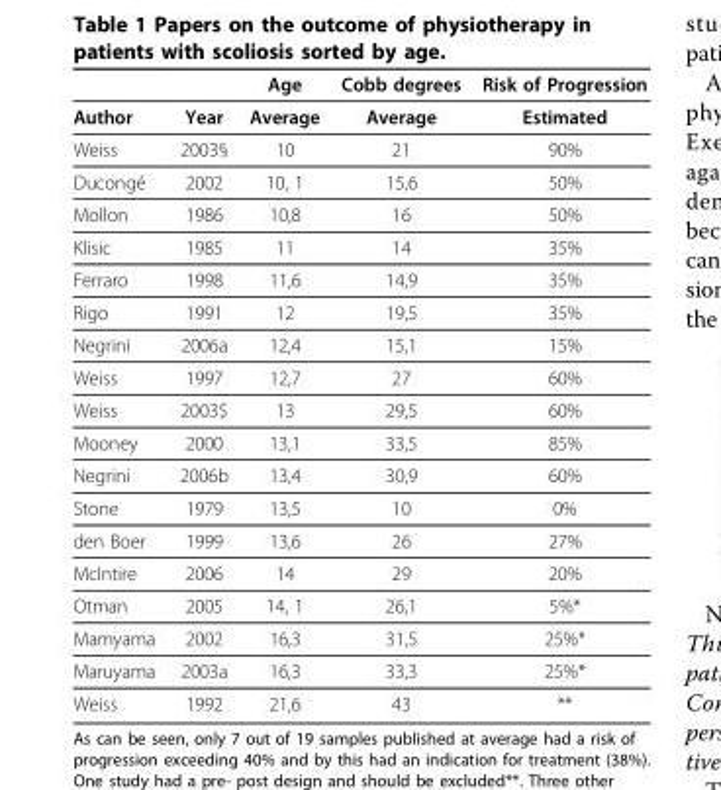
<table><thead><tr><td></td><td></td><td>Age</td><td>Cobb degrees</td><td>Risk of Progression</td></tr></thead><tbody><tr><td>Author</td><td>Year</td><td>Average</td><td>Average</td><td>Estimated</td></tr><tr><td>Weiss</td><td>2003§</td><td>10</td><td>21</td><td>90%</td></tr><tr><td>Ducongé</td><td>2002</td><td>10, 1</td><td>15,6</td><td>50%</td></tr><tr><td>Mollon</td><td>1986</td><td>10,8</td><td>16</td><td>50%</td></tr><tr><td>Klisic</td><td>1985</td><td>11</td><td>14</td><td>35%</td></tr><tr><td>Ferraro</td><td>1998</td><td>11,6</td><td>14,9</td><td>35%</td></tr><tr><td>Rigo</td><td>1991</td><td>12</td><td>19,5</td><td>35%</td></tr><tr><td>Negrini</td><td>2006a</td><td>12,4</td><td>15,1</td><td>15%</td></tr><tr><td>Weiss</td><td>1997</td><td>12,7</td><td>27</td><td>60%</td></tr><tr><td>Weiss</td><td>2003$</td><td>13</td><td>29,5</td><td>60%</td></tr><tr><td>Mooney</td><td>2000</td><td>13,1</td><td>33,5</td><td>85%</td></tr><tr><td>Negrini</td><td>2006b</td><td>13,4</td><td>30,9</td><td>60%</td></tr><tr><td>Stone</td><td>1979</td><td>13,5</td><td>10</td><td>0%</td></tr><tr><td>den Boer</td><td>1999</td><td>13,6</td><td>26</td><td>27%</td></tr><tr><td>McIntire</td><td>2006</td><td>14</td><td>29</td><td>20%</td></tr><tr><td>Otman</td><td>2005</td><td>14, 1</td><td>26,1</td><td>5%*</td></tr><tr><td>Mamyama</td><td>2002</td><td>16,3</td><td>31,5</td><td>25%*</td></tr><tr><td>Maruyama</td><td>2003a</td><td>16,3</td><td>33,3</td><td>25%*</td></tr><tr><td>Weiss</td><td>1992</td><td>21,6</td><td>43</td><td>**</td></tr></tbody></table>